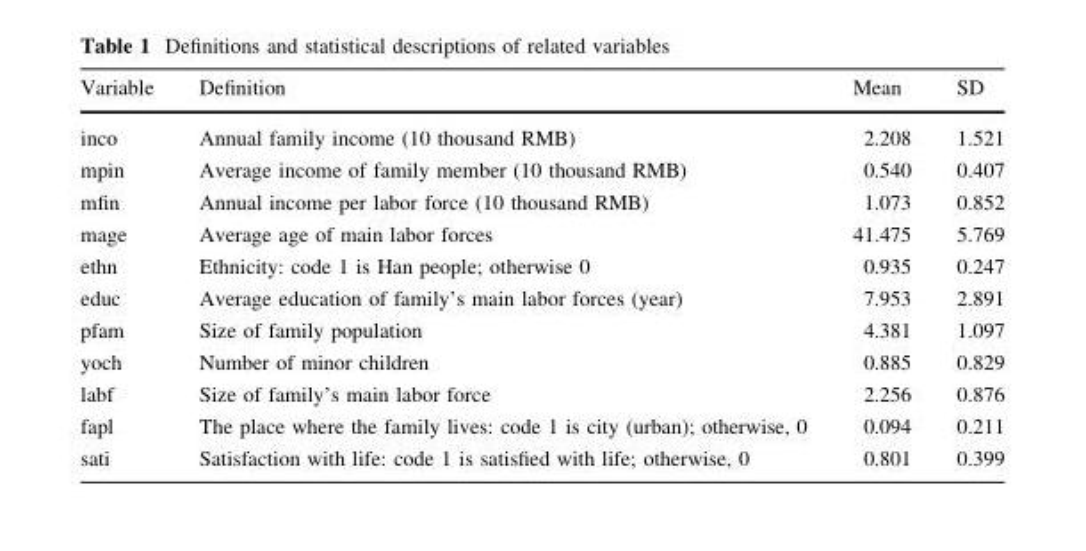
<table><thead><tr><td>Variable</td><td>Definition</td><td>Mean</td><td>SD</td></tr></thead><tbody><tr><td>inco</td><td>Annual family income (10 thousand RMB)</td><td>2.208</td><td>1.521</td></tr><tr><td>mpin</td><td>Average income of family member (10 thousand RMB)</td><td>0.540</td><td>0.407</td></tr><tr><td>mfin</td><td>Annual income per labor force (10 thousand RMB)</td><td>1.073</td><td>0.852</td></tr><tr><td>mage</td><td>Average age of main labor forces</td><td>41.475</td><td>5.769</td></tr><tr><td>ethn</td><td>Ethnicity: code 1 is Han people; otherwise 0</td><td>0.935</td><td>0.247</td></tr><tr><td>educ</td><td>Average education of family’s main labor forces (year)</td><td>7.953</td><td>2.891</td></tr><tr><td>pfam</td><td>Size of family population</td><td>4.381</td><td>1.097</td></tr><tr><td>yoch</td><td>Number of minor children</td><td>0.885</td><td>0.829</td></tr><tr><td>labf</td><td>Size of family’s main labor force</td><td>2.256</td><td>0.876</td></tr><tr><td>fapl</td><td>The place where the family lives: code 1 is city (urban); otherwise, 0</td><td>0.094</td><td>0.211</td></tr><tr><td>sati</td><td>Satisfaction with life: code 1 is satisfied with life; otherwise, 0</td><td>0.801</td><td>0.399</td></tr></tbody></table>